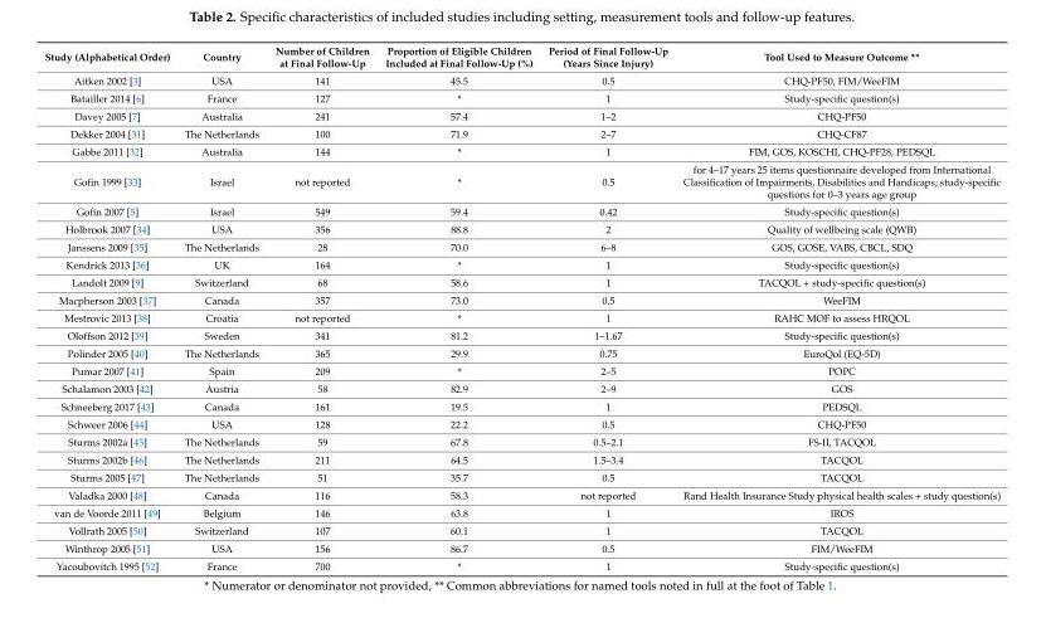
<table><thead><tr><td>Study (Alphabetical Order)</td><td>Country</td><td>Number of Children at Final Follow-Up</td><td>Proportion of Eligible Children Included at Final Follow-Up (%)</td><td>Period of Final Follow-Up (Years Since Injury)</td><td>Tool Used to Measure Outcome **</td></tr></thead><tbody><tr><td>Aitken 2002 [3]</td><td>USA</td><td>141</td><td>45.5</td><td>0.5</td><td>CHQ-PF50, FIM/WeeFIM</td></tr><tr><td>Batailler 2014 [6]</td><td>France</td><td>127</td><td>*</td><td>1</td><td>Study-specific question(s)</td></tr><tr><td>Davey 2005 [7]</td><td>Australia</td><td>241</td><td>57.4</td><td>1–2</td><td>CHQ-PF50</td></tr><tr><td>Dekker 2004 [31]</td><td>The Netherlands</td><td>100</td><td>71.9</td><td>2–7</td><td>CHQ-CF87</td></tr><tr><td>Gabbe 2011 [32]</td><td>Australia</td><td>144</td><td>*</td><td>1</td><td>FIM, GOS, KOSCHI, CHQ-PF28, PEDSQL</td></tr><tr><td>Gofin 1999 [33]</td><td>Israel</td><td>not reported</td><td>*</td><td>0.5</td><td>for 4–17 years 25 items questionnaire developed from International Classification of Impairments, Disabilities and Handicaps; study-specific questions for 0–3 years age group</td></tr><tr><td>Gofin 2007 [5]</td><td>Israel</td><td>549</td><td>59.4</td><td>0.42</td><td>Study-specific question(s)</td></tr><tr><td>Holbrook 2007 [34]</td><td>USA</td><td>356</td><td>88.8</td><td>2</td><td>Quality of wellbeing scale (QWB)</td></tr><tr><td>Janssens 2009 [35]</td><td>The Netherlands</td><td>28</td><td>70.0</td><td>6–8</td><td>GOS, GOSE, VABS, CBCL, SDQ</td></tr><tr><td>Kendrick 2013 [36]</td><td>UK</td><td>164</td><td>*</td><td>1</td><td>Study-specific question(s)</td></tr><tr><td>Landolt 2009 [9]</td><td>Switzerland</td><td>68</td><td>58.6</td><td>1</td><td>TACQOL + study-specific question(s)</td></tr><tr><td>Macpherson 2003 [37]</td><td>Canada</td><td>357</td><td>73.0</td><td>0.5</td><td>WeeFIM</td></tr><tr><td>Mestrovic 2013 [38]</td><td>Croatia</td><td>not reported</td><td>*</td><td>1</td><td>RAHC MOF to assess HRQOL</td></tr><tr><td>Oloffson 2012 [39]</td><td>Sweden</td><td>341</td><td>81.2</td><td>1–1.67</td><td>Study-specific question(s)</td></tr><tr><td>Polinder 2005 [40]</td><td>The Netherlands</td><td>365</td><td>29.9</td><td>0.75</td><td>EuroQol (EQ-5D)</td></tr><tr><td>Pumar 2007 [41]</td><td>Spain</td><td>209</td><td>*</td><td>2–5</td><td>POPC</td></tr><tr><td>Schalamon 2003 [42]</td><td>Austria</td><td>58</td><td>82.9</td><td>2–9</td><td>GOS</td></tr><tr><td>Schneeberg 2017 [43]</td><td>Canada</td><td>161</td><td>19.5</td><td>1</td><td>PEDSQL</td></tr><tr><td>Schweer 2006 [44]</td><td>USA</td><td>128</td><td>22.2</td><td>0.5</td><td>CHQ-PF50</td></tr><tr><td>Sturms 2002a [45]</td><td>The Netherlands</td><td>59</td><td>67.8</td><td>0.5–2.1</td><td>FS-II, TACQOL</td></tr><tr><td>Sturms 2002b [46]</td><td>The Netherlands</td><td>211</td><td>64.5</td><td>1.5–3.4</td><td>TACQOL</td></tr><tr><td>Sturms 2005 [47]</td><td>The Netherlands</td><td>51</td><td>35.7</td><td>0.5</td><td>TACQOL</td></tr><tr><td>Valadka 2000 [48]</td><td>Canada</td><td>116</td><td>58.3</td><td>not reported</td><td>Rand Health Insurance Study physical health scales + study question(s)</td></tr><tr><td>van de Voorde 2011 [49]</td><td>Belgium</td><td>146</td><td>63.8</td><td>1</td><td>IROS</td></tr><tr><td>Vollrath 2005 [50]</td><td>Switzerland</td><td>107</td><td>60.1</td><td>1</td><td>TACQOL</td></tr><tr><td>Winthrop 2005 [51]</td><td>USA</td><td>156</td><td>86.7</td><td>0.5</td><td>FIM/WeeFIM</td></tr><tr><td>Yacoubovitch 1995 [52]</td><td>France</td><td>700</td><td>*</td><td>1</td><td>Study-specific question(s)</td></tr></tbody></table>